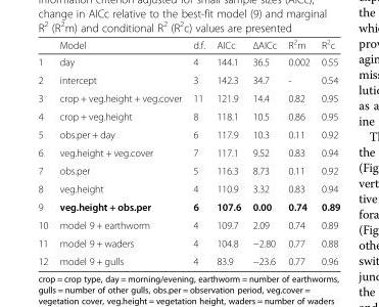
<table><thead><tr><td></td><td>Model</td><td>d.f.</td><td>AICc</td><td>ΔAICc</td><td>R<sup>2</sup>m</td><td>R<sup>2</sup>c</td></tr></thead><tbody><tr><td>1</td><td>day</td><td>4</td><td>144.1</td><td>36.5</td><td>0.002</td><td>0.55</td></tr><tr><td>2</td><td>intercept</td><td>3</td><td>142.3</td><td>34.7</td><td>-</td><td>0.54</td></tr><tr><td>3</td><td>crop + veg.height + veg.cover</td><td>11</td><td>121.9</td><td>14.4</td><td>0.82</td><td>0.95</td></tr><tr><td>4</td><td>crop + veg.height</td><td>8</td><td>118.1</td><td>10.5</td><td>0.86</td><td>0.95</td></tr><tr><td>5</td><td>obs.per + day</td><td>6</td><td>117.9</td><td>10.3</td><td>0.11</td><td>0.92</td></tr><tr><td>6</td><td>veg.height + veg.cover</td><td>7</td><td>117.1</td><td>9.52</td><td>0.83</td><td>0.94</td></tr><tr><td>7</td><td>obs.per</td><td>5</td><td>116.3</td><td>8.73</td><td>0.11</td><td>0.92</td></tr><tr><td>8</td><td>veg.height</td><td>4</td><td>110.9</td><td>3.32</td><td>0.83</td><td>0.94</td></tr><tr><td>9</td><td>veg.height + obs.per</td><td>6</td><td>107.6</td><td>0.00</td><td>0.74</td><td>0.89</td></tr><tr><td>10</td><td>model 9 + earthworm</td><td>4</td><td>109.7</td><td>2.09</td><td>0.74</td><td>0.89</td></tr><tr><td>11</td><td>model 9 + waders</td><td>4</td><td>104.8</td><td>−2.80</td><td>0.77</td><td>0.88</td></tr><tr><td>12</td><td>model 9 + gulls</td><td>4</td><td>83.9</td><td>−23.6</td><td>0.77</td><td>0.96</td></tr></tbody></table>